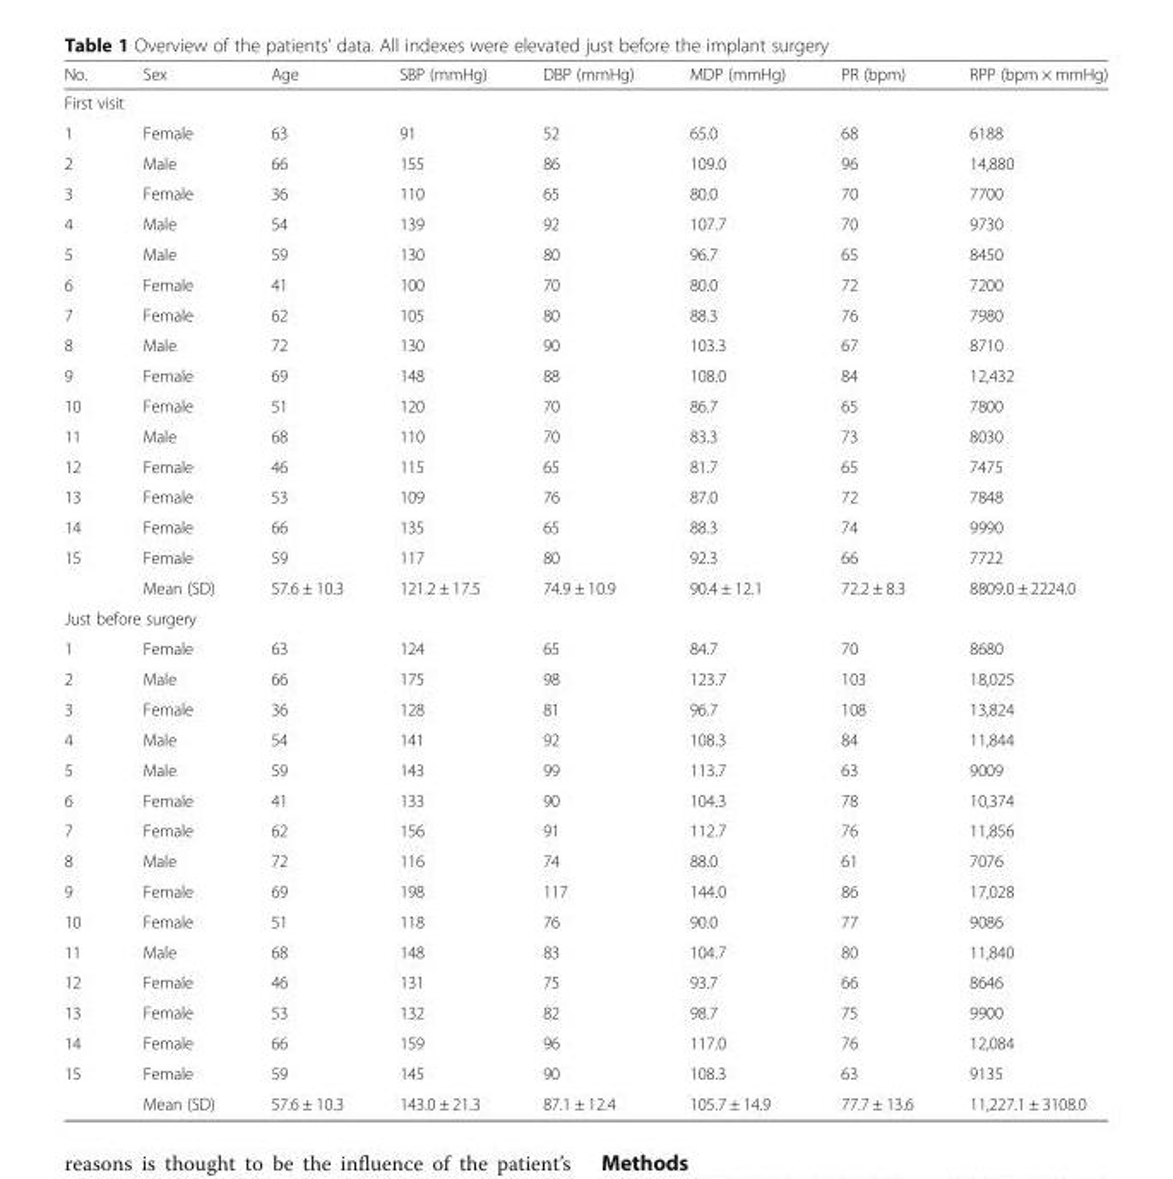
<table><thead><tr><td>No.</td><td>Sex</td><td>Age</td><td>SBP (mmHg)</td><td>DBP (mmHg)</td><td>MDP (mmHg)</td><td>PR (bpm)</td><td>RPP (bpm × mmHg)</td></tr></thead><tbody><tr><td colspan="8">First visit</td></tr><tr><td>1</td><td>Female</td><td>63</td><td>91</td><td>52</td><td>65.0</td><td>68</td><td>6188</td></tr><tr><td>2</td><td>Male</td><td>66</td><td>155</td><td>86</td><td>109.0</td><td>96</td><td>14,880</td></tr><tr><td>3</td><td>Female</td><td>36</td><td>110</td><td>65</td><td>80.0</td><td>70</td><td>7700</td></tr><tr><td>4</td><td>Male</td><td>54</td><td>139</td><td>92</td><td>107.7</td><td>70</td><td>9730</td></tr><tr><td>5</td><td>Male</td><td>59</td><td>130</td><td>80</td><td>96.7</td><td>65</td><td>8450</td></tr><tr><td>6</td><td>Female</td><td>41</td><td>100</td><td>70</td><td>80.0</td><td>72</td><td>7200</td></tr><tr><td>7</td><td>Female</td><td>62</td><td>105</td><td>80</td><td>88.3</td><td>76</td><td>7980</td></tr><tr><td>8</td><td>Male</td><td>72</td><td>130</td><td>90</td><td>103.3</td><td>67</td><td>8710</td></tr><tr><td>9</td><td>Female</td><td>69</td><td>148</td><td>88</td><td>108.0</td><td>84</td><td>12,432</td></tr><tr><td>10</td><td>Female</td><td>51</td><td>120</td><td>70</td><td>86.7</td><td>65</td><td>7800</td></tr><tr><td>11</td><td>Male</td><td>68</td><td>110</td><td>70</td><td>83.3</td><td>73</td><td>8030</td></tr><tr><td>12</td><td>Female</td><td>46</td><td>115</td><td>65</td><td>81.7</td><td>65</td><td>7475</td></tr><tr><td>13</td><td>Female</td><td>53</td><td>109</td><td>76</td><td>87.0</td><td>72</td><td>7848</td></tr><tr><td>14</td><td>Female</td><td>66</td><td>135</td><td>65</td><td>88.3</td><td>74</td><td>9990</td></tr><tr><td rowspan="2">15</td><td>Female</td><td>59</td><td>117</td><td>80</td><td>92.3</td><td>66</td><td>7722</td></tr><tr><td>Mean (SD)</td><td>57.6 ± 10.3</td><td>121.2 ± 17.5</td><td>74.9 ± 10.9</td><td>90.4 ± 12.1</td><td>72.2 ± 8.3</td><td>8809.0 ± 2224.0</td></tr><tr><td colspan="8">Just before surgery</td></tr><tr><td>1</td><td>Female</td><td>63</td><td>124</td><td>65</td><td>84.7</td><td>70</td><td>8680</td></tr><tr><td>2</td><td>Male</td><td>66</td><td>175</td><td>98</td><td>123.7</td><td>103</td><td>18,025</td></tr><tr><td>3</td><td>Female</td><td>36</td><td>128</td><td>81</td><td>96.7</td><td>108</td><td>13,824</td></tr><tr><td>4</td><td>Male</td><td>54</td><td>141</td><td>92</td><td>108.3</td><td>84</td><td>11,844</td></tr><tr><td>5</td><td>Male</td><td>59</td><td>143</td><td>99</td><td>113.7</td><td>63</td><td>9009</td></tr><tr><td>6</td><td>Female</td><td>41</td><td>133</td><td>90</td><td>104.3</td><td>78</td><td>10,374</td></tr><tr><td>7</td><td>Female</td><td>62</td><td>156</td><td>91</td><td>112.7</td><td>76</td><td>11,856</td></tr><tr><td>8</td><td>Male</td><td>72</td><td>116</td><td>74</td><td>88.0</td><td>61</td><td>7076</td></tr><tr><td>9</td><td>Female</td><td>69</td><td>198</td><td>117</td><td>144.0</td><td>86</td><td>17,028</td></tr><tr><td>10</td><td>Female</td><td>51</td><td>118</td><td>76</td><td>90.0</td><td>77</td><td>9086</td></tr><tr><td>11</td><td>Male</td><td>68</td><td>148</td><td>83</td><td>104.7</td><td>80</td><td>11,840</td></tr><tr><td>12</td><td>Female</td><td>46</td><td>131</td><td>75</td><td>93.7</td><td>66</td><td>8646</td></tr><tr><td>13</td><td>Female</td><td>53</td><td>132</td><td>82</td><td>98.7</td><td>75</td><td>9900</td></tr><tr><td>14</td><td>Female</td><td>66</td><td>159</td><td>96</td><td>117.0</td><td>76</td><td>12,084</td></tr><tr><td rowspan="2">15</td><td>Female</td><td>59</td><td>145</td><td>90</td><td>108.3</td><td>63</td><td>9135</td></tr><tr><td>Mean (SD)</td><td>57.6 ± 10.3</td><td>143.0 ± 21.3</td><td>87.1 ± 12.4</td><td>105.7 ± 14.9</td><td>77.7 ± 13.6</td><td>11,227.1 ± 3108.0</td></tr></tbody></table>